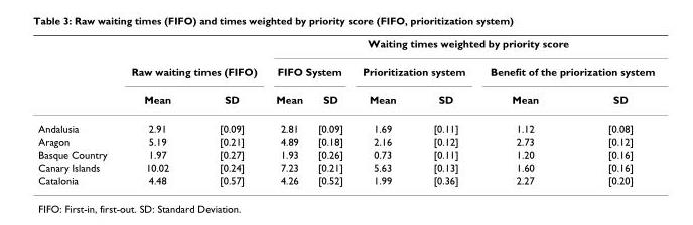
<table><thead><tr><td rowspan="3"></td><td></td><td></td><td colspan="6">Waiting times weighted by priority score</td></tr><tr><td colspan="2">Raw waiting times (FIFO)</td><td colspan="2">FIFO System</td><td colspan="2">Prioritization system</td><td colspan="2">Benefit of the priorization system</td></tr><tr><td>Mean</td><td>SD</td><td>Mean</td><td>SD</td><td>Mean</td><td>SD</td><td>Mean</td><td>SD</td></tr></thead><tbody><tr><td>Andalusia</td><td>2.91</td><td>[0.09]</td><td>2.81</td><td>[0.09]</td><td>1.69</td><td>[0.11]</td><td>1.12</td><td>[0.08]</td></tr><tr><td>Aragon</td><td>5.19</td><td>[0.21]</td><td>4.89</td><td>[0.18]</td><td>2.16</td><td>[0.12]</td><td>2.73</td><td>[0.12]</td></tr><tr><td>Basque Country</td><td>1.97</td><td>[0.27]</td><td>1.93</td><td>[0.26]</td><td>0.73</td><td>[0.11]</td><td>1.20</td><td>[0.16]</td></tr><tr><td>Canary Islands</td><td>10.02</td><td>[0.24]</td><td>7.23</td><td>[0.21]</td><td>5.63</td><td>[0.13]</td><td>1.60</td><td>[0.16]</td></tr><tr><td>Catalonia</td><td>4.48</td><td>[0.57]</td><td>4.26</td><td>[0.52]</td><td>1.99</td><td>[0.36]</td><td>2.27</td><td>[0.20]</td></tr></tbody></table>